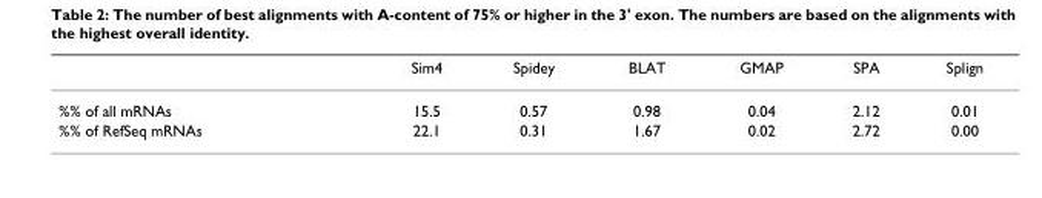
<table><thead><tr><td></td><td>Sim4</td><td>Spidey</td><td>BLAT</td><td>GMAP</td><td>SPA</td><td>Splign</td></tr></thead><tbody><tr><td>%% of all mRNAs</td><td>15.5</td><td>0.57</td><td>0.98</td><td>0.04</td><td>2.12</td><td>0.01</td></tr><tr><td>%% of RefSeq mRNAs</td><td>22.1</td><td>0.31</td><td>1.67</td><td>0.02</td><td>2.72</td><td>0.00</td></tr></tbody></table>